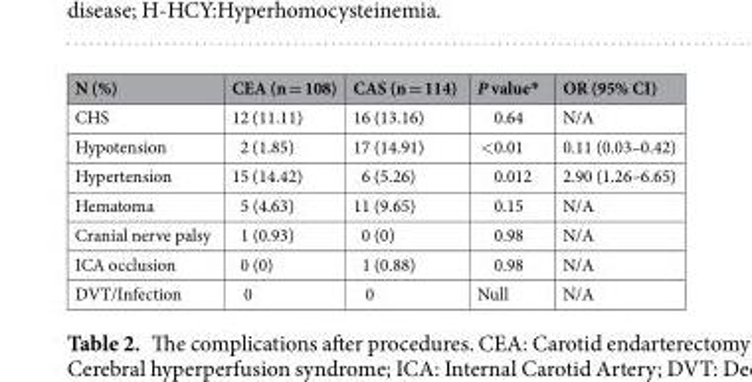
<table><thead><tr><td>N (%)</td><td>CEA (n = 108)</td><td>CAS (n = 114)</td><td>P value*</td><td>OR (95% CI)</td></tr></thead><tbody><tr><td>CHS</td><td>12 (11.11)</td><td>16 (13.16)</td><td>0.64</td><td>N/A</td></tr><tr><td>Hypotension</td><td>2 (1.85)</td><td>17 (14.91)</td><td>&lt;0.01</td><td>0.11 (0.03–0.42)</td></tr><tr><td>Hypertension</td><td>15 (14.42)</td><td>6 (5.26)</td><td>0.012</td><td>2.90 (1.26–6.65)</td></tr><tr><td>Hematoma</td><td>5 (4.63)</td><td>11 (9.65)</td><td>0.15</td><td>N/A</td></tr><tr><td>Cranial nerve palsy</td><td>1 (0.93)</td><td>0 (0)</td><td>0.98</td><td>N/A</td></tr><tr><td>ICA occlusion</td><td>0 (0)</td><td>1 (0.88)</td><td>0.98</td><td>N/A</td></tr><tr><td>DVT/Infection</td><td>0</td><td>0</td><td>Null</td><td>N/A</td></tr></tbody></table>